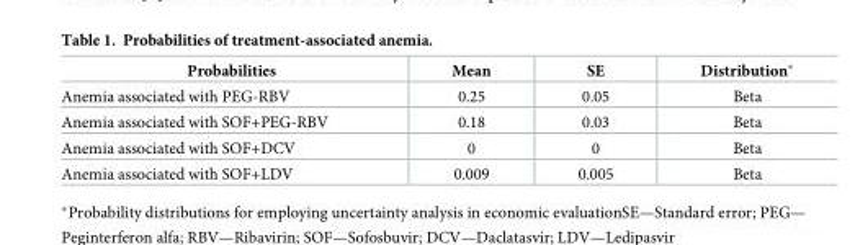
<table><thead><tr><td>Probabilities</td><td>Mean</td><td>SE</td><td>Distribution*</td></tr></thead><tbody><tr><td>Anemia associated with PEG-RBV</td><td>0.25</td><td>0.05</td><td>Beta</td></tr><tr><td>Anemia associated with SOF+PEG-RBV</td><td>0.18</td><td>0.03</td><td>Beta</td></tr><tr><td>Anemia associated with SOF+DCV</td><td>0</td><td>0</td><td>Beta</td></tr><tr><td>Anemia associated with SOF+LDV</td><td>0.009</td><td>0.005</td><td>Beta</td></tr></tbody></table>